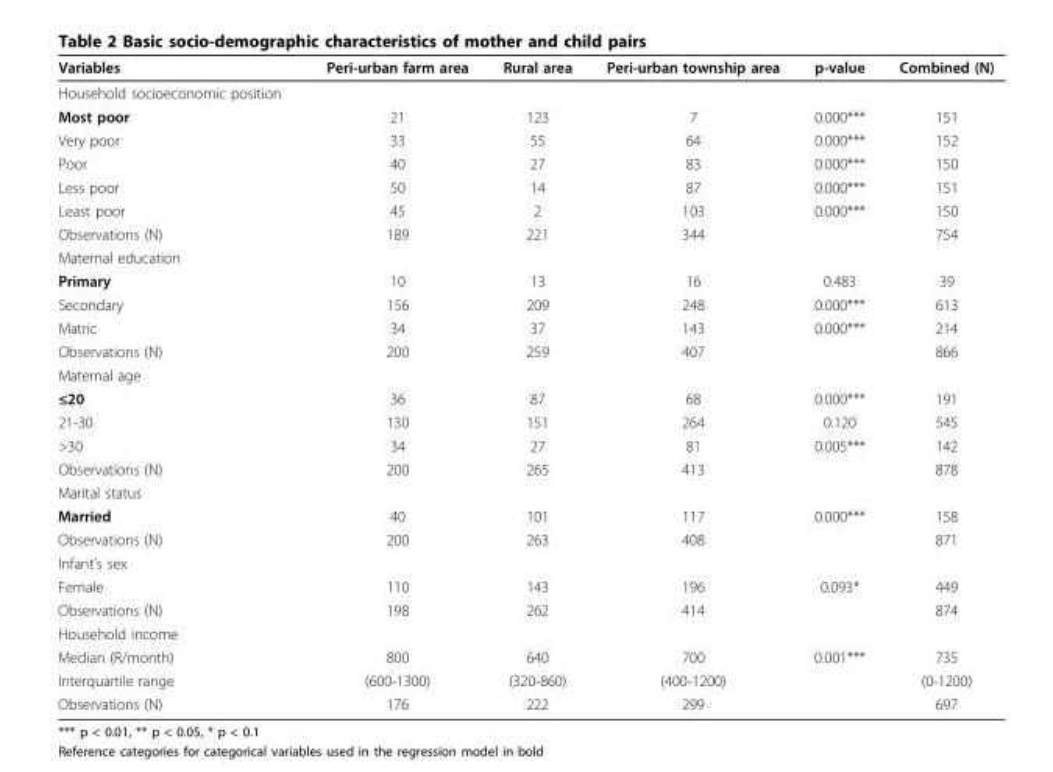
<table><thead><tr><td>Variables</td><td>Peri-urban farm area</td><td>Rural area</td><td>Peri-urban township area</td><td>p-value</td><td>Combined (N)</td></tr></thead><tbody><tr><td colspan="6">Household socioeconomic position</td></tr><tr><td>Most poor</td><td>21</td><td>123</td><td>7</td><td>0.000***</td><td>151</td></tr><tr><td>Very poor</td><td>33</td><td>55</td><td>64</td><td>0.000***</td><td>152</td></tr><tr><td>Poor</td><td>40</td><td>27</td><td>83</td><td>0.000***</td><td>150</td></tr><tr><td>Less poor</td><td>50</td><td>14</td><td>87</td><td>0.000***</td><td>151</td></tr><tr><td>Least poor</td><td>45</td><td>2</td><td>103</td><td>0.000***</td><td>150</td></tr><tr><td>Observations (N)</td><td>189</td><td>221</td><td>344</td><td></td><td>754</td></tr><tr><td colspan="6">Maternal education</td></tr><tr><td>Primary</td><td>10</td><td>13</td><td>16</td><td>0.483</td><td>39</td></tr><tr><td>Secondary</td><td>156</td><td>209</td><td>248</td><td>0.000***</td><td>613</td></tr><tr><td>Matric</td><td>34</td><td>37</td><td>143</td><td>0.000***</td><td>214</td></tr><tr><td>Observations (N)</td><td>200</td><td>259</td><td>407</td><td></td><td>866</td></tr><tr><td colspan="6">Maternal age</td></tr><tr><td>≤20</td><td>36</td><td>87</td><td>68</td><td>0.000***</td><td>191</td></tr><tr><td>21-30</td><td>130</td><td>151</td><td>264</td><td>0.120</td><td>545</td></tr><tr><td>&gt;30</td><td>34</td><td>27</td><td>81</td><td>0.005***</td><td>142</td></tr><tr><td>Observations (N)</td><td>200</td><td>265</td><td>413</td><td></td><td>878</td></tr><tr><td colspan="6">Marital status</td></tr><tr><td>Married</td><td>40</td><td>101</td><td>117</td><td>0.000***</td><td>158</td></tr><tr><td>Observations (N)</td><td>200</td><td>263</td><td>408</td><td></td><td>871</td></tr><tr><td colspan="6">Infant’s sex</td></tr><tr><td>Female</td><td>110</td><td>143</td><td>196</td><td>0.093*</td><td>449</td></tr><tr><td>Observations (N)</td><td>198</td><td>262</td><td>414</td><td></td><td>874</td></tr><tr><td colspan="6">Household income</td></tr><tr><td>Median (R/month)</td><td>800</td><td>640</td><td>700</td><td>0.001***</td><td>735</td></tr><tr><td>Interquartile range</td><td>(600-1300)</td><td>(320-860)</td><td>(400-1200)</td><td></td><td>(0-1200)</td></tr><tr><td>Observations (N)</td><td>176</td><td>222</td><td>299</td><td></td><td>697</td></tr></tbody></table>